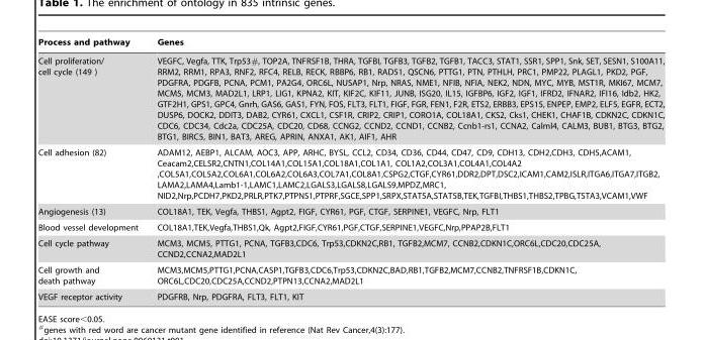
<table><thead><tr><td>Process and pathway</td><td>Genes</td></tr></thead><tbody><tr><td>Cell proliferation/ cell cycle (149 )</td><td>VEGFC, Vegfa, TTK, Trp53#, TOP2A, TNFRSF1B, THRA, TGFBI, TGFB3, TGFB2, TGFB1, TACC3, STAT1, SSR1, SPP1, Snk, SET, SESN1, S100A11, RRM2, RRM1, RPA3, RNF2, RFC4, RELB, RECK, RBBP6, RB1, RAD51, QSCN6, PTTG1, PTN, PTHLH, PRC1, PMP22, PLAGL1, PKD2, PGF, PDGFRA, PDGFB, PCNA, PCM1, PA2G4, ORC6L, NUSAP1, Nrp, NRAS, NME1, NFIB, NFIA, NEK2, NDN, MYC, MYB, MST1R, MKI67, MCM7, MCM5, MCM3, MAD2L1, LRP1, LIG1, KPNA2, KIT, KIF2C, KIF11, JUNB, ISG20, IL15, IGFBP6, IGF2, IGF1, IFRD2, IFNAR2, IFI16, Idb2, HK2, GTF2H1, GPS1, GPC4, Gnrh, GAS6, GAS1, FYN, FOS, FLT3, FLT1, FIGF, FGR, FEN1, F2R, ETS2, ERBB3, EPS15, ENPEP, EMP2, ELF5, EGFR, ECT2, DUSP6, DOCK2, DDIT3, DAB2, CYR61, CXCL1, CSF1R, CRIP2, CRIP1, CORO1A, COL18A1, CKS2, Cks1, CHEK1, CHAF1B, CDKN2C, CDKN1C, CDC6, CDC34, Cdc2a, CDC25A, CDC20, CD68, CCNG2, CCND2, CCND1, CCNB2, Ccnb1-rs1, CCNA2, Calml4, CALM3, BUB1, BTG3, BTG2, BTG1, BIRC5, BIN1, BAT3, AREG, APRIN, ANXA1, AK1, AIF1, AHR</td></tr><tr><td>Cell adhesion (82)</td><td>ADAM12, AEBP1, ALCAM, AOC3, APP, ARHC, BYSL, CCL2, CD34, CD36, CD44, CD47, CD9, CDH13, CDH2,CDH3, CDH5,ACAM1, Ceacam2,CELSR2,CNTN1,COL14A1,COL15A1,COL18A1,COL1A1, COL1A2,COL3A1,COL4A1,COL4A2 ,COL5A1,COL5A2,COL6A1,COL6A2,COL6A3,COL7A1,COL8A1,CSPG2,CTGF,CYR61,DDR2,DPT,DSC2,ICAM1,CAM2,ISLR,ITGA6,ITGA7,ITGB2, LAMA2,LAMA4,Lamb1-1,LAMC1,LAMC2,LGALS3,LGALS8,LGALS9,MPDZ,MRC1, NID2,Nrp,PCDH7,PKD2,PRLR,PTK7,PTPNS1,PTPRF,SGCE,SPP1,SRPX,STAT5A,STAT5B,TEK,TGFBI,THBS1,THBS2,TPBG,TSTA3,VCAM1,VWF</td></tr><tr><td>Angiogenesis (13)</td><td>COL18A1, TEK, Vegfa, THBS1, Agpt2, FIGF, CYR61, PGF, CTGF, SERPINE1, VEGFC, Nrp, FLT1</td></tr><tr><td>Blood vessel development</td><td>COL18A1,TEK,Vegfa,THBS1,Qk, Agpt2,FIGF,CYR61,PGF,CTGF,SERPINE1,VEGFC,Nrp,PPAP2B,FLT1</td></tr><tr><td>Cell cycle pathway</td><td>MCM3, MCM5, PTTG1, PCNA, TGFB3,CDC6, Trp53,CDKN2C,RB1, TGFB2,MCM7, CCNB2,CDKN1C,ORC6L,CDC20,CDC25A, CCND2,CCNA2,MAD2L1</td></tr><tr><td>Cell growth and death pathway</td><td>MCM3,MCM5,PTTG1,PCNA,CASP1,TGFB3,CDC6,Trp53,CDKN2C,BAD,RB1,TGFB2,MCM7,CCNB2,TNFRSF1B,CDKN1C, ORC6L,CDC20,CDC25A,CCND2,PTPN13,CCNA2,MAD2L1</td></tr><tr><td>VEGF receptor activity</td><td>PDGFRB, Nrp, PDGFRA, FLT3, FLT1, KIT</td></tr></tbody></table>